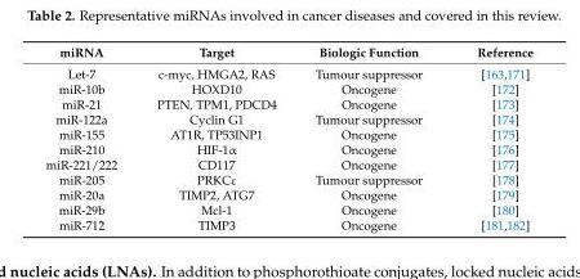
<table><thead><tr><td>miRNA</td><td>Target</td><td>Biologic Function</td><td>Reference</td></tr></thead><tbody><tr><td>Let-7</td><td>c-myc, HMGA2, RAS</td><td>Tumour suppressor</td><td>[163,171]</td></tr><tr><td>miR-10b</td><td>HOXD10</td><td>Oncogene</td><td>[172]</td></tr><tr><td>miR-21</td><td>PTEN, TPM1, PDCD4</td><td>Oncogene</td><td>[173]</td></tr><tr><td>miR-122a</td><td>Cyclin G1</td><td>Tumour suppressor</td><td>[174]</td></tr><tr><td>miR-155</td><td>AT1R, TP53INP1</td><td>Oncogene</td><td>[175]</td></tr><tr><td>miR-210</td><td>HIF-1α</td><td>Oncogene</td><td>[176]</td></tr><tr><td>miR-221/222</td><td>CD117</td><td>Oncogene</td><td>[177]</td></tr><tr><td>miR-205</td><td>PRKCε</td><td>Tumour suppressor</td><td>[178]</td></tr><tr><td>miR-20a</td><td>TIMP2, ATG7</td><td>Oncogene</td><td>[179]</td></tr><tr><td>miR-29b</td><td>Mcl-1</td><td>Oncogene</td><td>[180]</td></tr><tr><td>miR-712</td><td>TIMP3</td><td>Oncogene</td><td>[181,182]</td></tr></tbody></table>